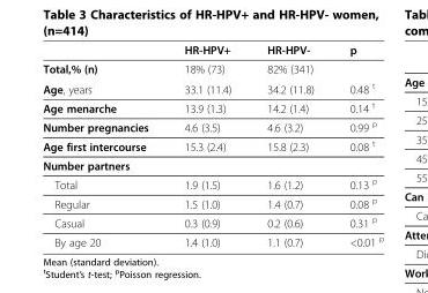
<table><thead><tr><td></td><td>HR-HPV+</td><td>HR-HPV-</td><td>p</td></tr></thead><tbody><tr><td>Total,% (n)</td><td>18% (73)</td><td>82% (341)</td><td></td></tr><tr><td>Age, years</td><td>33.1 (11.4)</td><td>34.2 (11.8)</td><td>0.48 <sup>t</sup></td></tr><tr><td>Age menarche</td><td>13.9 (1.3)</td><td>14.2 (1.4)</td><td>0.14 <sup>t</sup></td></tr><tr><td>Number pregnancies</td><td>4.6 (3.5)</td><td>4.6 (3.2)</td><td>0.99 <sup>p</sup></td></tr><tr><td>Age first intercourse</td><td>15.3 (2.4)</td><td>15.8 (2.3)</td><td>0.08 <sup>t</sup></td></tr><tr><td colspan="4">Number partners</td></tr><tr><td>Total</td><td>1.9 (1.5)</td><td>1.6 (1.2)</td><td>0.13 <sup>p</sup></td></tr><tr><td>Regular</td><td>1.5 (1.0)</td><td>1.4 (0.7)</td><td>0.08 <sup>p</sup></td></tr><tr><td>Casual</td><td>0.3 (0.9)</td><td>0.2 (0.6)</td><td>0.31 <sup>p</sup></td></tr><tr><td>By age 20</td><td>1.4 (1.0)</td><td>1.1 (0.7)</td><td>&lt;0.01 <sup>p</sup></td></tr></tbody></table>